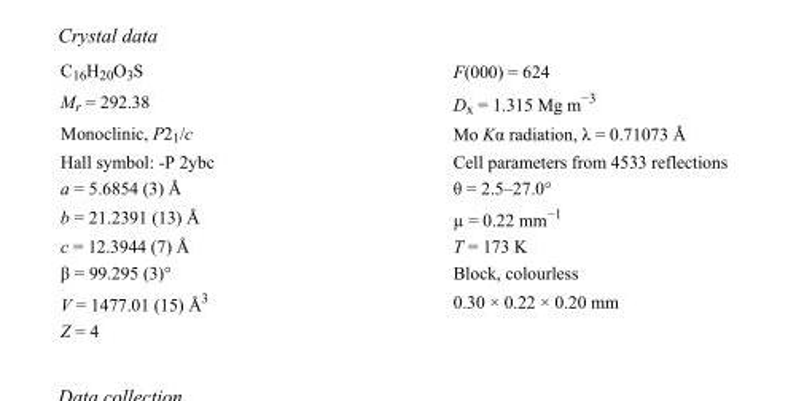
<table><tbody><tr><td>C<sub>16</sub>H<sub>20</sub>O<sub>3</sub>S</td><td>F(000) = 624</td></tr><tr><td>M<sub>r</sub> = 292.38</td><td>D<sub>x</sub> = 1.315 Mg m<sup>−3</sup></td></tr><tr><td>Monoclinic, P2<sub>1</sub>/c</td><td>Mo Kα radiation, λ = 0.71073 Å</td></tr><tr><td>Hall symbol: -P 2ybc</td><td>Cell parameters from 4533 reflections</td></tr><tr><td>a = 5.6854 (3) Å</td><td>θ = 2.5–27.0°</td></tr><tr><td>b = 21.2391 (13) Å</td><td>µ = 0.22 mm<sup>−1</sup></td></tr><tr><td>c = 12.3944 (7) Å</td><td>T = 173 K</td></tr><tr><td>β = 99.295 (3)°</td><td>Block, colourless</td></tr><tr><td>V = 1477.01 (15) Å<sup>3</sup></td><td>0.30 × 0.22 × 0.20 mm</td></tr><tr><td>Z = 4</td><td></td></tr></tbody></table>